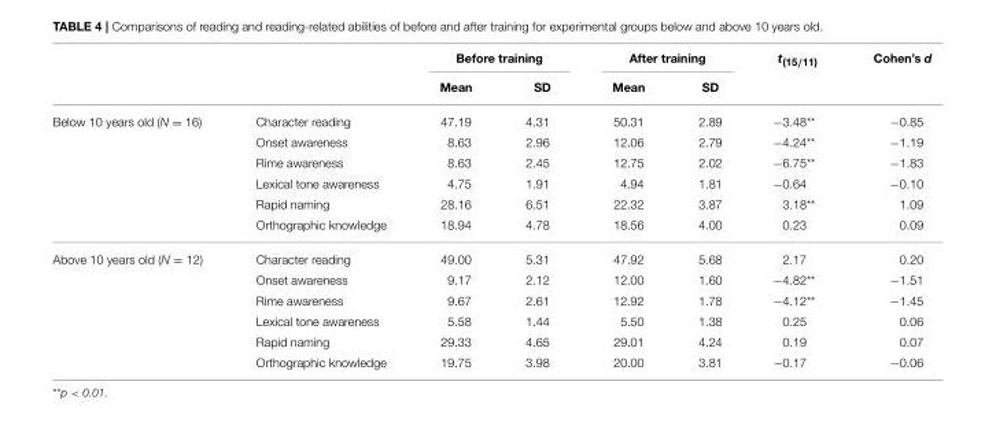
<table><thead><tr><td rowspan="2"></td><td rowspan="2"></td><td colspan="2">Before training</td><td colspan="2">After training</td><td rowspan="2">t<sub>(15/11)</sub></td><td rowspan="2">Cohen’s d</td></tr><tr><td>Mean</td><td>SD</td><td>Mean</td><td>SD</td></tr></thead><tbody><tr><td rowspan="6">Below 10 years old (N = 16)</td><td>Character reading</td><td>47.19</td><td>4.31</td><td>50.31</td><td>2.89</td><td>−3.48**</td><td>−0.85</td></tr><tr><td>Onset awareness</td><td>8.63</td><td>2.96</td><td>12.06</td><td>2.79</td><td>−4.24**</td><td>−1.19</td></tr><tr><td>Rime awareness</td><td>8.63</td><td>2.45</td><td>12.75</td><td>2.02</td><td>−6.75**</td><td>−1.83</td></tr><tr><td>Lexical tone awareness</td><td>4.75</td><td>1.91</td><td>4.94</td><td>1.81</td><td>−0.64</td><td>−0.10</td></tr><tr><td>Rapid naming</td><td>28.16</td><td>6.51</td><td>22.32</td><td>3.87</td><td>3.18**</td><td>1.09</td></tr><tr><td>Orthographic knowledge</td><td>18.94</td><td>4.78</td><td>18.56</td><td>4.00</td><td>0.23</td><td>0.09</td></tr><tr><td rowspan="6">Above 10 years old (N = 12)</td><td>Character reading</td><td>49.00</td><td>5.31</td><td>47.92</td><td>5.68</td><td>2.17</td><td>0.20</td></tr><tr><td>Onset awareness</td><td>9.17</td><td>2.12</td><td>12.00</td><td>1.60</td><td>−4.82**</td><td>−1.51</td></tr><tr><td>Rime awareness</td><td>9.67</td><td>2.61</td><td>12.92</td><td>1.78</td><td>−4.12**</td><td>−1.45</td></tr><tr><td>Lexical tone awareness</td><td>5.58</td><td>1.44</td><td>5.50</td><td>1.38</td><td>0.25</td><td>0.06</td></tr><tr><td>Rapid naming</td><td>29.33</td><td>4.65</td><td>29.01</td><td>4.24</td><td>0.19</td><td>0.07</td></tr><tr><td>Orthographic knowledge</td><td>19.75</td><td>3.98</td><td>20.00</td><td>3.81</td><td>−0.17</td><td>−0.06</td></tr></tbody></table>